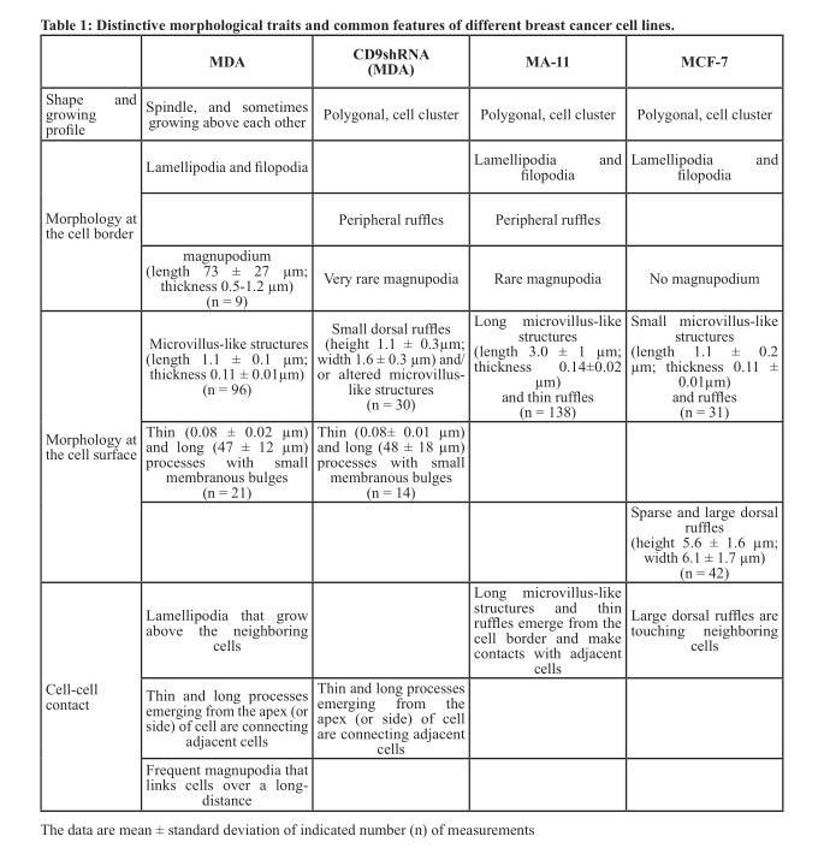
<table><thead><tr><td></td><td>MDA</td><td>CD9shRNA (MDA)</td><td>MA-11</td><td>MCF-7</td></tr></thead><tbody><tr><td>Shape and growing profile</td><td>Spindle, and sometimes growing above each other</td><td>Polygonal, cell cluster</td><td>Polygonal, cell cluster</td><td>Polygonal, cell cluster</td></tr><tr><td rowspan="3">Morphology at the cell border</td><td>Lamellipodia and filopodia</td><td></td><td>Lamellipodia and filopodia</td><td>Lamellipodia and filopodia</td></tr><tr><td></td><td>Peripheral ruffles</td><td>Peripheral ruffles</td><td></td></tr><tr><td>magnupodium (length 73 ± 27 µm; thickness 0.5-1.2 µm) (n = 9)</td><td>Very rare magnupodia</td><td>Rare magnupodia</td><td>No magnupodium</td></tr><tr><td rowspan="3">Morphology at the cell surface</td><td>Microvillus-like structures (length 1.1 ± 0.1 µm; thickness 0.11 ± 0.01µm) (n = 96)</td><td>Small dorsal ruffles (height 1.1 ± 0.3µm; width 1.6 ± 0.3 µm) and/ or altered microvillus- like structures (n = 30)</td><td>Long microvillus-like structures (length 3.0 ± 1 µm; thickness 0.14±0.02 µm) and thin ruffles (n = 138)</td><td>Small microvillus-like structures (length 1.1 ± 0.2 µm; thickness 0.11 ± 0.01µm) and ruffles (n = 31)</td></tr><tr><td>Thin (0.08 ± 0.02 µm) and long (47 ± 12 µm) processes with small membranous bulges (n = 21)</td><td>Thin (0.08± 0.01 µm) and long (48 ± 18 µm) processes with small membranous bulges (n = 14)</td><td></td><td></td></tr><tr><td></td><td></td><td></td><td>Sparse and large dorsal ruffles (height 5.6 ± 1.6 µm; width 6.1 ± 1.7 µm) (n = 42)</td></tr><tr><td rowspan="3">Cell-cell contact</td><td>Lamellipodia that grow above the neighboring cells</td><td></td><td>Long microvillus-like structures and thin ruffles emerge from the cell border and make contacts with adjacent cells</td><td>Large dorsal ruffles are touching neighboring cells</td></tr><tr><td>Thin and long processes emerging from the apex (or side) of cell are connecting adjacent cells</td><td>Thin and long processes emerging from the apex (or side) of cell are connecting adjacent cells</td><td></td><td></td></tr><tr><td>Frequent magnupodia that links cells over a long- distance</td><td></td><td></td><td></td></tr></tbody></table>